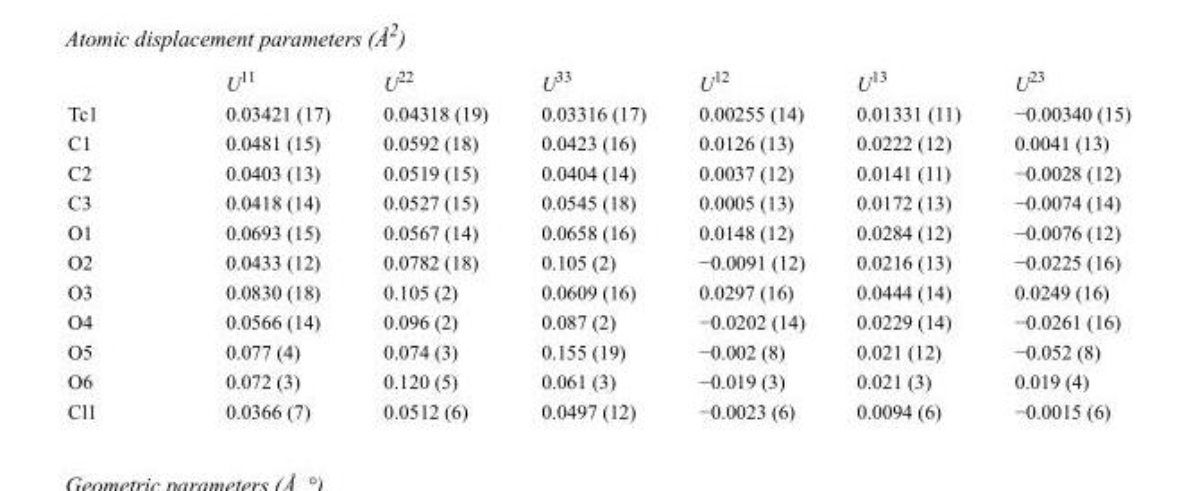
<table><thead><tr><td></td><td>U<sup>11</sup></td><td>U<sup>22</sup></td><td>U<sup>33</sup></td><td>U<sup>12</sup></td><td>U<sup>13</sup></td><td>U<sup>23</sup></td></tr></thead><tbody><tr><td>Tc1</td><td>0.03421 (17)</td><td>0.04318 (19)</td><td>0.03316 (17)</td><td>0.00255 (14)</td><td>0.01331 (11)</td><td>−0.00340 (15)</td></tr><tr><td>C1</td><td>0.0481 (15)</td><td>0.0592 (18)</td><td>0.0423 (16)</td><td>0.0126 (13)</td><td>0.0222 (12)</td><td>0.0041 (13)</td></tr><tr><td>C2</td><td>0.0403 (13)</td><td>0.0519 (15)</td><td>0.0404 (14)</td><td>0.0037 (12)</td><td>0.0141 (11)</td><td>−0.0028 (12)</td></tr><tr><td>C3</td><td>0.0418 (14)</td><td>0.0527 (15)</td><td>0.0545 (18)</td><td>0.0005 (13)</td><td>0.0172 (13)</td><td>−0.0074 (14)</td></tr><tr><td>O1</td><td>0.0693 (15)</td><td>0.0567 (14)</td><td>0.0658 (16)</td><td>0.0148 (12)</td><td>0.0284 (12)</td><td>−0.0076 (12)</td></tr><tr><td>O2</td><td>0.0433 (12)</td><td>0.0782 (18)</td><td>0.105 (2)</td><td>−0.0091 (12)</td><td>0.0216 (13)</td><td>−0.0225 (16)</td></tr><tr><td>O3</td><td>0.0830 (18)</td><td>0.105 (2)</td><td>0.0609 (16)</td><td>0.0297 (16)</td><td>0.0444 (14)</td><td>0.0249 (16)</td></tr><tr><td>O4</td><td>0.0566 (14)</td><td>0.096 (2)</td><td>0.087 (2)</td><td>−0.0202 (14)</td><td>0.0229 (14)</td><td>−0.0261 (16)</td></tr><tr><td>O5</td><td>0.077 (4)</td><td>0.074 (3)</td><td>0.155 (19)</td><td>−0.002 (8)</td><td>0.021 (12)</td><td>−0.052 (8)</td></tr><tr><td>O6</td><td>0.072 (3)</td><td>0.120 (5)</td><td>0.061 (3)</td><td>−0.019 (3)</td><td>0.021 (3)</td><td>0.019 (4)</td></tr><tr><td>Cl1</td><td>0.0366 (7)</td><td>0.0512 (6)</td><td>0.0497 (12)</td><td>−0.0023 (6)</td><td>0.0094 (6)</td><td>−0.0015 (6)</td></tr></tbody></table>